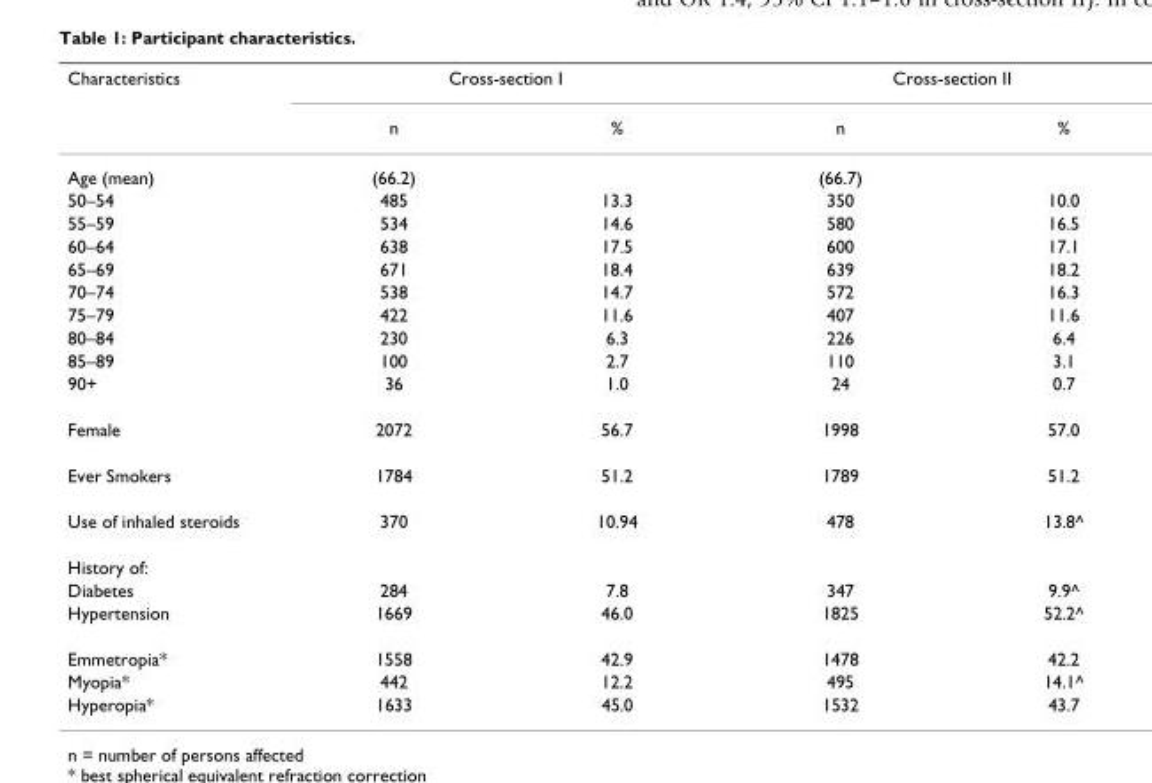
<table><thead><tr><td rowspan="2">Characteristics</td><td colspan="2">Cross-section I</td><td colspan="2">Cross-section II</td></tr><tr><td>n</td><td>%</td><td>n</td><td>%</td></tr></thead><tbody><tr><td>Age (mean)</td><td>(66.2)</td><td></td><td>(66.7)</td><td></td></tr><tr><td>50–54</td><td>485</td><td>13.3</td><td>350</td><td>10.0</td></tr><tr><td>55–59</td><td>534</td><td>14.6</td><td>580</td><td>16.5</td></tr><tr><td>60–64</td><td>638</td><td>17.5</td><td>600</td><td>17.1</td></tr><tr><td>65–69</td><td>671</td><td>18.4</td><td>639</td><td>18.2</td></tr><tr><td>70–74</td><td>538</td><td>14.7</td><td>572</td><td>16.3</td></tr><tr><td>75–79</td><td>422</td><td>11.6</td><td>407</td><td>11.6</td></tr><tr><td>80–84</td><td>230</td><td>6.3</td><td>226</td><td>6.4</td></tr><tr><td>85–89</td><td>100</td><td>2.7</td><td>110</td><td>3.1</td></tr><tr><td>90+</td><td>36</td><td>1.0</td><td>24</td><td>0.7</td></tr><tr><td>Female</td><td>2072</td><td>56.7</td><td>1998</td><td>57.0</td></tr><tr><td>Ever Smokers</td><td>1784</td><td>51.2</td><td>1789</td><td>51.2</td></tr><tr><td>Use of inhaled steroids</td><td>370</td><td>10.94</td><td>478</td><td>13.8^</td></tr><tr><td colspan="5">History of:</td></tr><tr><td>Diabetes</td><td>284</td><td>7.8</td><td>347</td><td>9.9^</td></tr><tr><td>Hypertension</td><td>1669</td><td>46.0</td><td>1825</td><td>52.2^</td></tr><tr><td>Emmetropia*</td><td>1558</td><td>42.9</td><td>1478</td><td>42.2</td></tr><tr><td>Myopia*</td><td>442</td><td>12.2</td><td>495</td><td>14.1^</td></tr><tr><td>Hyperopia*</td><td>1633</td><td>45.0</td><td>1532</td><td>43.7</td></tr></tbody></table>